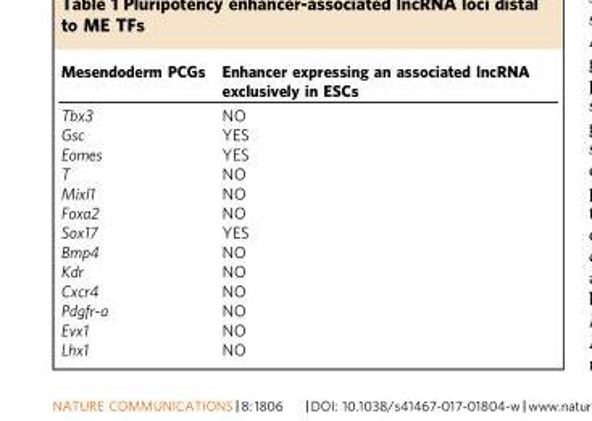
<table><thead><tr><td>Mesendoderm PCGs</td><td>Enhancer expressing an associated lncRNA exclusively in ESCs</td></tr></thead><tbody><tr><td>Tbx3</td><td>NO</td></tr><tr><td>Gsc</td><td>YES</td></tr><tr><td>Eomes</td><td>YES</td></tr><tr><td>T</td><td>NO</td></tr><tr><td>Mixl1</td><td>NO</td></tr><tr><td>Foxa2</td><td>NO</td></tr><tr><td>Sox17</td><td>YES</td></tr><tr><td>Bmp4</td><td>NO</td></tr><tr><td>Kdr</td><td>NO</td></tr><tr><td>Cxcr4</td><td>NO</td></tr><tr><td>Pdgfr-a</td><td>NO</td></tr><tr><td>Evx1</td><td>NO</td></tr><tr><td>Lhx1</td><td>NO</td></tr></tbody></table>